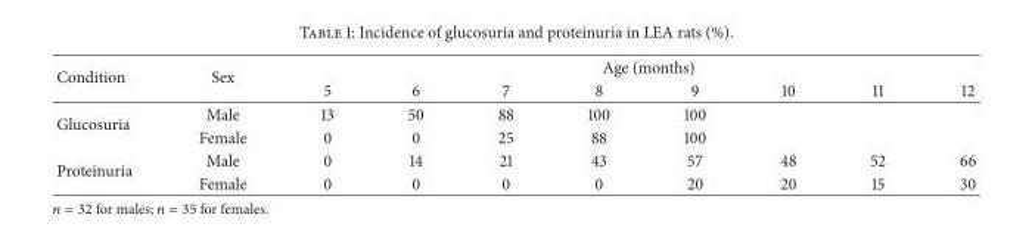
<table><thead><tr><td rowspan="2">Condition</td><td rowspan="2">Sex</td><td colspan="8">Age (months)</td></tr><tr><td>5</td><td>6</td><td>7</td><td>8</td><td>9</td><td>10</td><td>11</td><td>12</td></tr></thead><tbody><tr><td rowspan="2">Glucosuria</td><td>Male</td><td>13</td><td>50</td><td>88</td><td>100</td><td>100</td><td></td><td></td><td></td></tr><tr><td>Female</td><td>0</td><td>0</td><td>25</td><td>88</td><td>100</td><td></td><td></td><td></td></tr><tr><td rowspan="2">Proteinuria</td><td>Male</td><td>0</td><td>14</td><td>21</td><td>43</td><td>57</td><td>48</td><td>52</td><td>66</td></tr><tr><td>Female</td><td>0</td><td>0</td><td>0</td><td>0</td><td>20</td><td>20</td><td>15</td><td>30</td></tr></tbody></table>